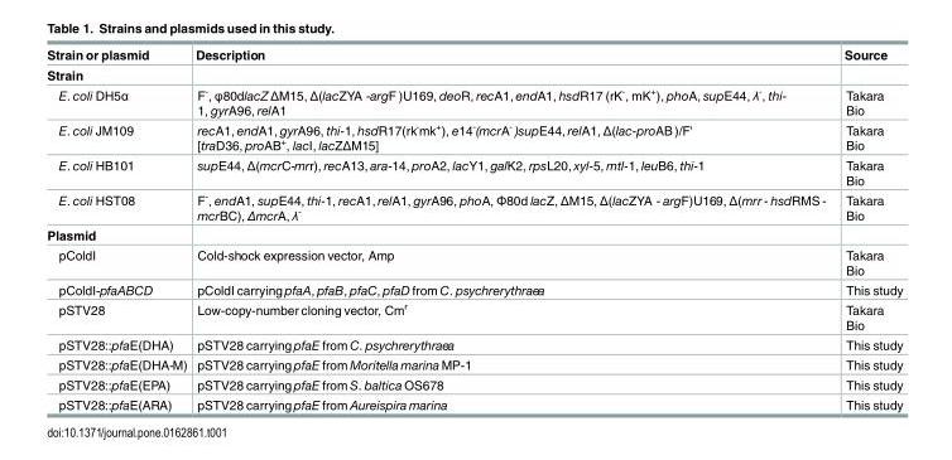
<table><thead><tr><td>Strain or plasmid</td><td>Description</td><td>Source</td></tr></thead><tbody><tr><td colspan="3">Strain</td></tr><tr><td>E. coli DH5α</td><td>F-, φ80dlacZ ΔM15, Δ(lacZYA -argF )U169, deoR, recA1, endA1, hsdR17 (rK-, mK+), phoA, supE44, λ-, thi- 1, gyrA96, relA1</td><td>Takara Bio</td></tr><tr><td>E. coli JM109</td><td>recA1, endA1, gyrA96, thi-1, hsdR17(rk-mk+), e14-(mcrA- )supE44, relA1, Δ(lac-proAB )/F&#x27; [traD36, proAB+, lacI, lacZΔM15]</td><td>Takara Bio</td></tr><tr><td>E. coli HB101</td><td>supE44, Δ(mcrC-mrr), recA13, ara-14, proA2, lacY1, galK2, rpsL20, xyl-5, mtl-1, leuB6, thi-1</td><td>Takara Bio</td></tr><tr><td>E. coli HST08</td><td>F-, endA1, supE44, thi-1, recA1, relA1, gyrA96, phoA, Φ80d lacZ, ΔM15, Δ(lacZYA - argF)U169, Δ(mrr - hsdRMS - mcrBC), ΔmcrA, λ-</td><td>Takara Bio</td></tr><tr><td colspan="3">Plasmid</td></tr><tr><td>pColdI</td><td>Cold-shock expression vector, Amp</td><td>Takara Bio</td></tr><tr><td>pColdI-pfaABCD</td><td>pColdI carrying pfaA, pfaB, pfaC, pfaD from C. psychrerythraea</td><td>This study</td></tr><tr><td>pSTV28</td><td>Low-copy-number cloning vector, Cm<sup>r</sup></td><td>Takara Bio</td></tr><tr><td>pSTV28::pfaE(DHA)</td><td>pSTV28 carrying pfaE from C. psychrerythraea</td><td>This study</td></tr><tr><td>pSTV28::pfaE(DHA-M)</td><td>pSTV28 carrying pfaE from Moritella marina MP-1</td><td>This study</td></tr><tr><td>pSTV28::pfaE(EPA)</td><td>pSTV28 carrying pfaE from S. baltica OS678</td><td>This study</td></tr><tr><td>pSTV28::pfaE(ARA)</td><td>pSTV28 carrying pfaE from Aureispira marina</td><td>This study</td></tr></tbody></table>